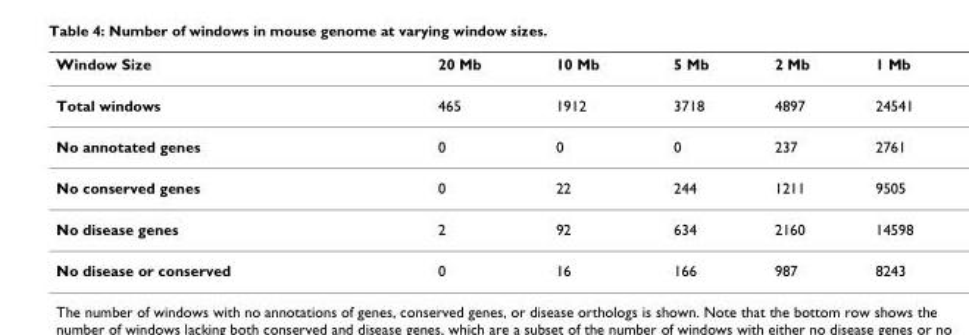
<table><thead><tr><td>Window Size</td><td>20 Mb</td><td>10 Mb</td><td>5 Mb</td><td>2 Mb</td><td>1 Mb</td></tr></thead><tbody><tr><td>Total windows</td><td>465</td><td>1912</td><td>3718</td><td>4897</td><td>24541</td></tr><tr><td>No annotated genes</td><td>0</td><td>0</td><td>0</td><td>237</td><td>2761</td></tr><tr><td>No conserved genes</td><td>0</td><td>22</td><td>244</td><td>1211</td><td>9505</td></tr><tr><td>No disease genes</td><td>2</td><td>92</td><td>634</td><td>2160</td><td>14598</td></tr><tr><td>No disease or conserved</td><td>0</td><td>16</td><td>166</td><td>987</td><td>8243</td></tr></tbody></table>